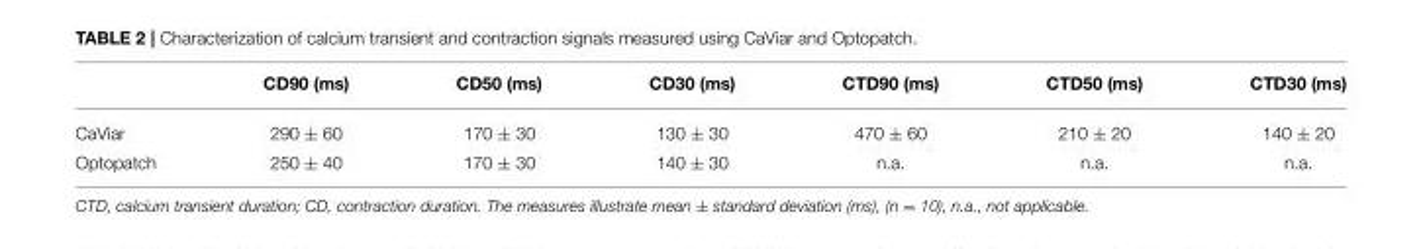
<table><thead><tr><td></td><td>CD90 (ms)</td><td>CD50 (ms)</td><td>CD30 (ms)</td><td>CTD90 (ms)</td><td>CTD50 (ms)</td><td>CTD30 (ms)</td></tr></thead><tbody><tr><td>CaViar</td><td>290 ± 60</td><td>170 ± 30</td><td>130 ± 30</td><td>470 ± 60</td><td>210 ± 20</td><td>140 ± 20</td></tr><tr><td>Optopatch</td><td>250 ± 40</td><td>170 ± 30</td><td>140 ± 30</td><td>n.a.</td><td>n.a.</td><td>n.a.</td></tr></tbody></table>